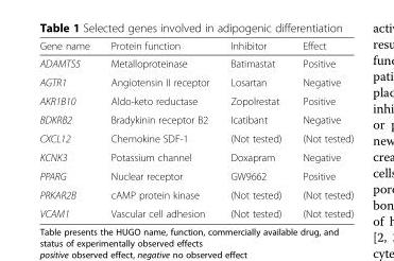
<table><thead><tr><td>Gene name</td><td>Protein function</td><td>Inhibitor</td><td>Effect</td></tr></thead><tbody><tr><td>ADAMTS5</td><td>Metalloproteinase</td><td>Batimastat</td><td>Positive</td></tr><tr><td>AGTR1</td><td>Angiotensin II receptor</td><td>Losartan</td><td>Negative</td></tr><tr><td>AKR1B10</td><td>Aldo-keto reductase</td><td>Zopolrestat</td><td>Positive</td></tr><tr><td>BDKRB2</td><td>Bradykinin receptor B2</td><td>Icatibant</td><td>Negative</td></tr><tr><td>CXCL12</td><td>Chemokine SDF-1</td><td>(Not tested)</td><td>(Not tested)</td></tr><tr><td>KCNK3</td><td>Potassium channel</td><td>Doxapram</td><td>Negative</td></tr><tr><td>PPARG</td><td>Nuclear receptor</td><td>GW9662</td><td>Positive</td></tr><tr><td>PRKAR2B</td><td>cAMP protein kinase</td><td>(Not tested)</td><td>(Not tested)</td></tr><tr><td>VCAM1</td><td>Vascular cell adhesion</td><td>(Not tested)</td><td>(Not tested)</td></tr></tbody></table>